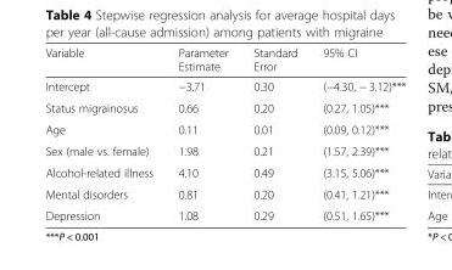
<table><thead><tr><td>Variable</td><td>Parameter Estimate</td><td>Standard Error</td><td>95% CI</td></tr></thead><tbody><tr><td>Intercept</td><td>−3.71</td><td>0.30</td><td>(−4.30, − 3.12)***</td></tr><tr><td>Status migrainosus</td><td>0.66</td><td>0.20</td><td>(0.27, 1.05)***</td></tr><tr><td>Age</td><td>0.11</td><td>0.01</td><td>(0.09, 0.12)***</td></tr><tr><td>Sex (male vs. female)</td><td>1.98</td><td>0.21</td><td>(1.57, 2.39)***</td></tr><tr><td>Alcohol-related illness</td><td>4.10</td><td>0.49</td><td>(3.15, 5.06)***</td></tr><tr><td>Mental disorders</td><td>0.81</td><td>0.20</td><td>(0.41, 1.21)***</td></tr><tr><td>Depression</td><td>1.08</td><td>0.29</td><td>(0.51, 1.65)***</td></tr></tbody></table>